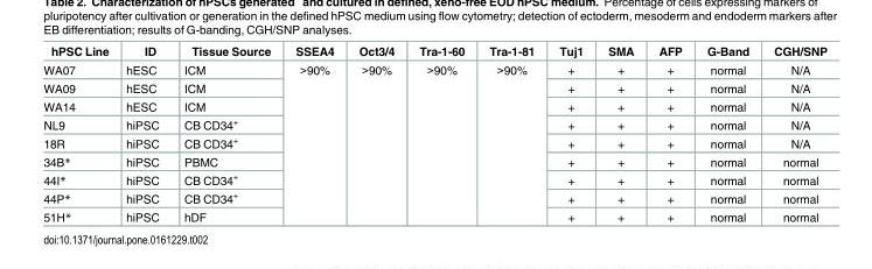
<table><thead><tr><td>hPSC Line</td><td>ID</td><td>Tissue Source</td><td>SSEA4</td><td>Oct3/4</td><td>Tra-1-60</td><td>Tra-1-81</td><td>Tuj1</td><td>SMA</td><td>AFP</td><td>G-Band</td><td>CGH/SNP</td></tr></thead><tbody><tr><td>WA07</td><td>hESC</td><td>ICM</td><td rowspan="9">&gt;90%</td><td rowspan="9">&gt;90%</td><td rowspan="9">&gt;90%</td><td rowspan="9">&gt;90%</td><td>+</td><td>+</td><td>+</td><td>normal</td><td>N/A</td></tr><tr><td>WA09</td><td>hESC</td><td>ICM</td><td>+</td><td>+</td><td>+</td><td>normal</td><td>N/A</td></tr><tr><td>WA14</td><td>hESC</td><td>ICM</td><td>+</td><td>+</td><td>+</td><td>normal</td><td>N/A</td></tr><tr><td>NL9</td><td>hiPSC</td><td>CB CD34<sup>+</sup></td><td>+</td><td>+</td><td>+</td><td>normal</td><td>N/A</td></tr><tr><td>18R</td><td>hiPSC</td><td>CB CD34<sup>+</sup></td><td>+</td><td>+</td><td>+</td><td>normal</td><td>N/A</td></tr><tr><td>34B*</td><td>hiPSC</td><td>PBMC</td><td>+</td><td>+</td><td>+</td><td>normal</td><td>normal</td></tr><tr><td>44I*</td><td>hiPSC</td><td>CB CD34<sup>+</sup></td><td>+</td><td>+</td><td>+</td><td>normal</td><td>normal</td></tr><tr><td>44P*</td><td>hiPSC</td><td>CB CD34<sup>+</sup></td><td>+</td><td>+</td><td>+</td><td>normal</td><td>normal</td></tr><tr><td>51H*</td><td>hiPSC</td><td>hDF</td><td>+</td><td>+</td><td>+</td><td>normal</td><td>normal</td></tr></tbody></table>